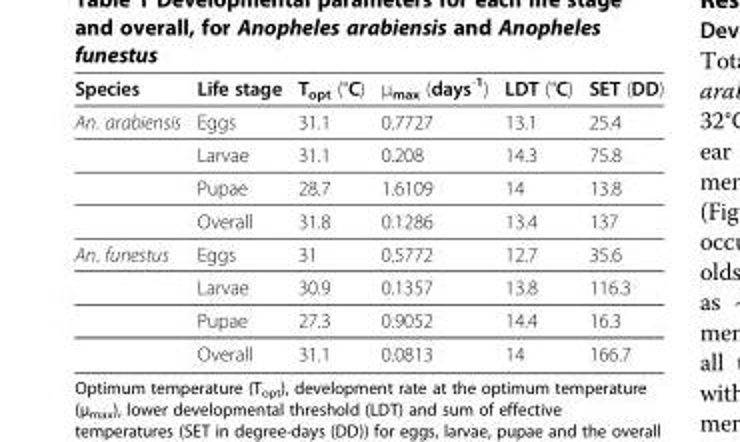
<table><thead><tr><td>Species</td><td>Life stage</td><td>T<sub>opt</sub> (°C)</td><td>μ<sub>max</sub> (days<sup>-1</sup>)</td><td>LDT (°C)</td><td>SET (DD)</td></tr></thead><tbody><tr><td rowspan="4">An. arabiensis</td><td>Eggs</td><td>31.1</td><td>0.7727</td><td>13.1</td><td>25.4</td></tr><tr><td>Larvae</td><td>31.1</td><td>0.208</td><td>14.3</td><td>75.8</td></tr><tr><td>Pupae</td><td>28.7</td><td>1.6109</td><td>14</td><td>13.8</td></tr><tr><td>Overall</td><td>31.8</td><td>0.1286</td><td>13.4</td><td>137</td></tr><tr><td rowspan="4">An. funestus</td><td>Eggs</td><td>31</td><td>0.5772</td><td>12.7</td><td>35.6</td></tr><tr><td>Larvae</td><td>30.9</td><td>0.1357</td><td>13.8</td><td>116.3</td></tr><tr><td>Pupae</td><td>27.3</td><td>0.9052</td><td>14.4</td><td>16.3</td></tr><tr><td>Overall</td><td>31.1</td><td>0.0813</td><td>14</td><td>166.7</td></tr></tbody></table>